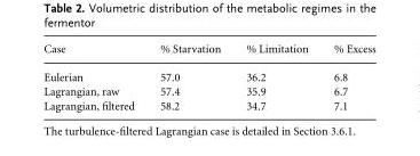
<table><thead><tr><td>Case</td><td>% Starvation</td><td>% Limitation</td><td>% Excess</td></tr></thead><tbody><tr><td>Eulerian</td><td>57.0</td><td>36.2</td><td>6.8</td></tr><tr><td>Lagrangian, raw</td><td>57.4</td><td>35.9</td><td>6.7</td></tr><tr><td>Lagrangian, filtered</td><td>58.2</td><td>34.7</td><td>7.1</td></tr></tbody></table>